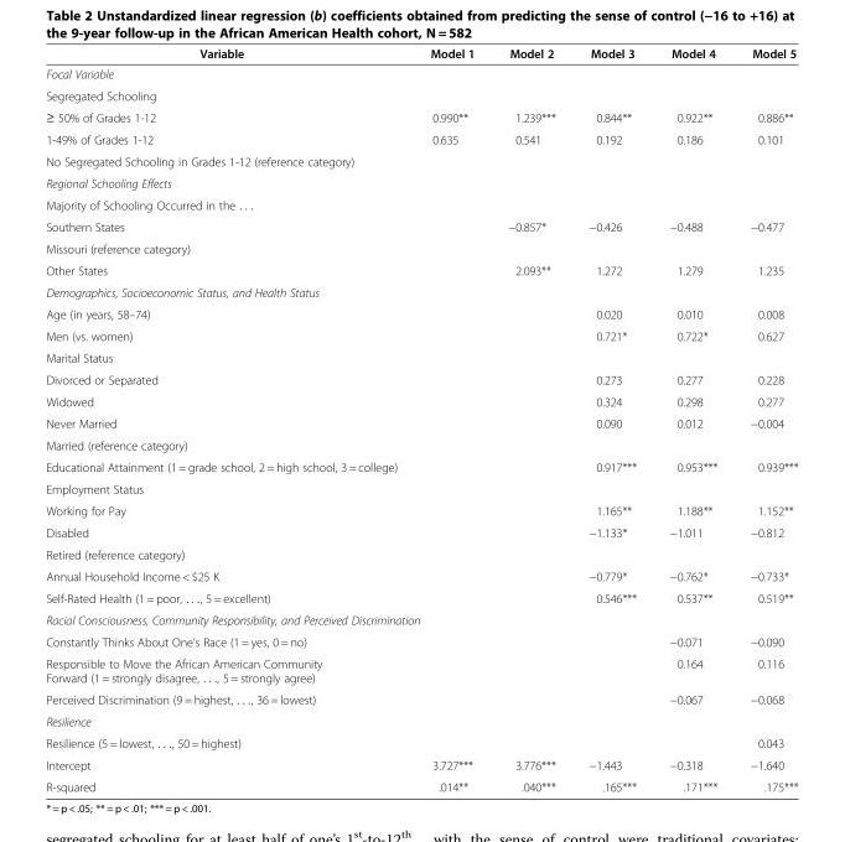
<table><thead><tr><td>Variable</td><td>Model 1</td><td>Model 2</td><td>Model 3</td><td>Model 4</td><td>Model 5</td></tr></thead><tbody><tr><td colspan="6">Focal Variable</td></tr><tr><td colspan="6">Segregated Schooling</td></tr><tr><td>≥ 50% of Grades 1-12</td><td>0.990**</td><td>1.239***</td><td>0.844**</td><td>0.922**</td><td>0.886**</td></tr><tr><td>1-49% of Grades 1-12</td><td>0.635</td><td>0.541</td><td>0.192</td><td>0.186</td><td>0.101</td></tr><tr><td colspan="6">No Segregated Schooling in Grades 1-12 (reference category)</td></tr><tr><td colspan="6">Regional Schooling Effects</td></tr><tr><td colspan="6">Majority of Schooling Occurred in the . . .</td></tr><tr><td>Southern States</td><td></td><td>−0.857*</td><td>−0.426</td><td>−0.488</td><td>−0.477</td></tr><tr><td colspan="6">Missouri (reference category)</td></tr><tr><td>Other States</td><td></td><td>2.093**</td><td>1.272</td><td>1.279</td><td>1.235</td></tr><tr><td colspan="6">Demographics, Socioeconomic Status, and Health Status</td></tr><tr><td>Age (in years, 58–74)</td><td></td><td></td><td>0.020</td><td>0.010</td><td>0.008</td></tr><tr><td>Men (vs. women)</td><td></td><td></td><td>0.721*</td><td>0.722*</td><td>0.627</td></tr><tr><td colspan="6">Marital Status</td></tr><tr><td>Divorced or Separated</td><td></td><td></td><td>0.273</td><td>0.277</td><td>0.228</td></tr><tr><td>Widowed</td><td></td><td></td><td>0.324</td><td>0.298</td><td>0.277</td></tr><tr><td>Never Married</td><td></td><td></td><td>0.090</td><td>0.012</td><td>−0.004</td></tr><tr><td colspan="6">Married (reference category)</td></tr><tr><td>Educational Attainment (1 = grade school, 2 = high school, 3 = college)</td><td></td><td></td><td>0.917***</td><td>0.953***</td><td>0.939***</td></tr><tr><td colspan="6">Employment Status</td></tr><tr><td>Working for Pay</td><td></td><td></td><td>1.165**</td><td>1.188**</td><td>1.152**</td></tr><tr><td>Disabled</td><td></td><td></td><td>−1.133*</td><td>−1.011</td><td>−0.812</td></tr><tr><td colspan="6">Retired (reference category)</td></tr><tr><td>Annual Household Income &lt; $25 K</td><td></td><td></td><td>−0.779*</td><td>−0.762*</td><td>−0.733*</td></tr><tr><td>Self-Rated Health (1 = poor, . . ., 5 = excellent)</td><td></td><td></td><td>0.546***</td><td>0.537**</td><td>0.519**</td></tr><tr><td colspan="6">Racial Consciousness, Community Responsibility, and Perceived Discrimination</td></tr><tr><td>Constantly Thinks About One’s Race (1 = yes, 0 = no)</td><td></td><td></td><td></td><td>−0.071</td><td>−0.090</td></tr><tr><td>Responsible to Move the African American Community Forward (1 = strongly disagree, . . ., 5 = strongly agree)</td><td></td><td></td><td></td><td>0.164</td><td>0.116</td></tr><tr><td>Perceived Discrimination (9 = highest, . . ., 36 = lowest)</td><td></td><td></td><td></td><td>−0.067</td><td>−0.068</td></tr><tr><td colspan="6">Resilience</td></tr><tr><td>Resilience (5 = lowest, . . ., 50 = highest)</td><td></td><td></td><td></td><td></td><td>0.043</td></tr><tr><td>Intercept</td><td>3.727***</td><td>3.776***</td><td>−1.443</td><td>−0.318</td><td>−1.640</td></tr><tr><td>R-squared</td><td>.014**</td><td>.040***</td><td>.165***</td><td>.171***</td><td>.175***</td></tr></tbody></table>